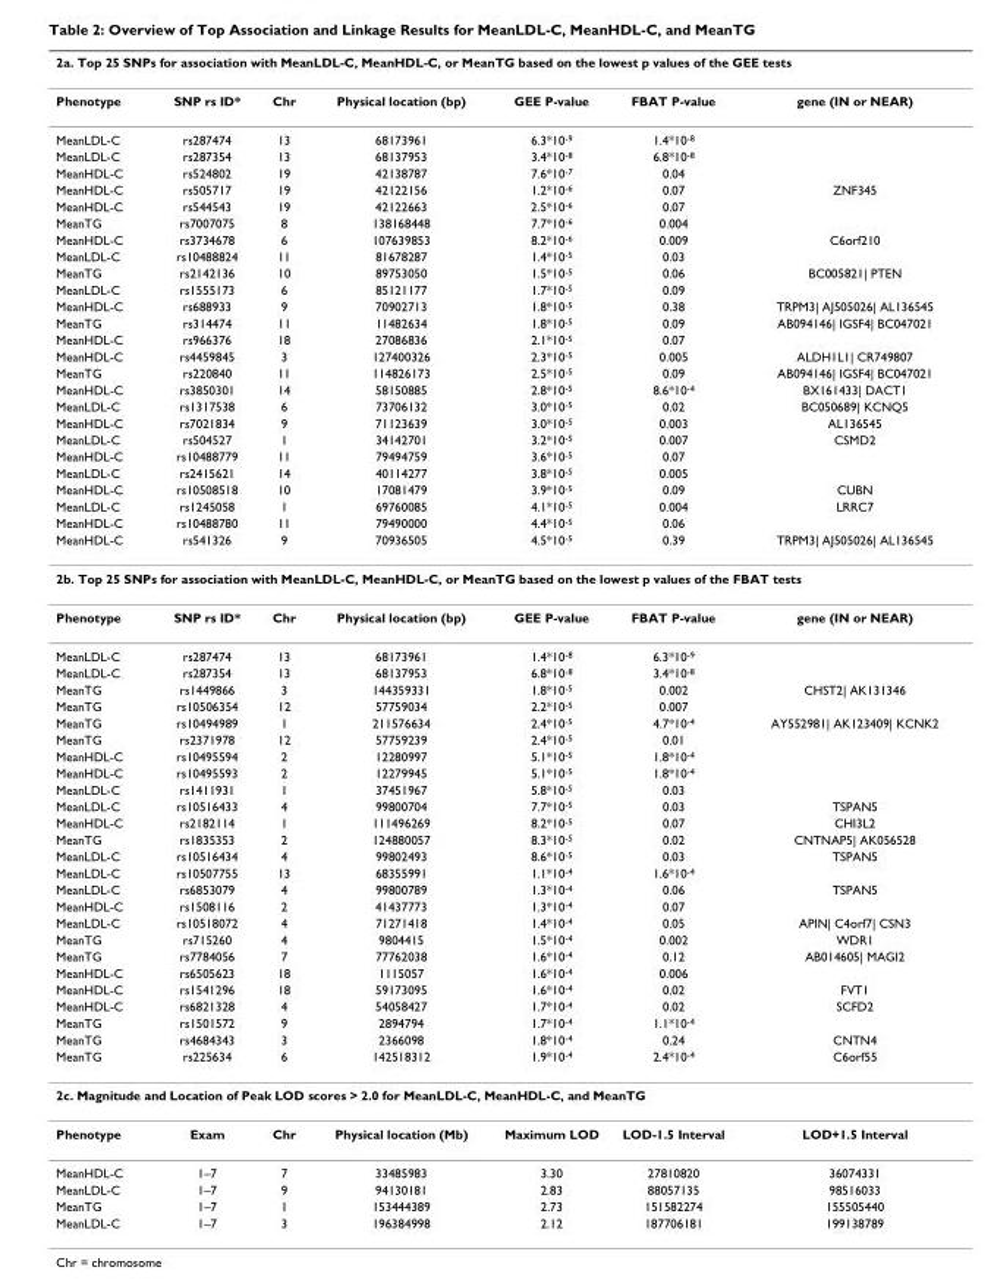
<table><thead><tr><td colspan="7">2a. Top 25 SNPs for association with MeanLDL-C, MeanHDL-C, or MeanTG based on the lowest p values of the GEE tests</td></tr><tr><td>Phenotype</td><td>SNP rs ID*</td><td>Chr</td><td>Physical location (bp)</td><td>GEE P-value</td><td>FBAT P-value</td><td>gene (IN or NEAR)</td></tr></thead><tbody><tr><td>MeanLDL-C</td><td>rs287474</td><td>13</td><td>68173961</td><td>6.3*10<sup>-9</sup></td><td>1.4*10<sup>-8</sup></td><td></td></tr><tr><td>MeanLDL-C</td><td>rs287354</td><td>13</td><td>68137953</td><td>3.4*10<sup>-8</sup></td><td>6.8*10<sup>-8</sup></td><td></td></tr><tr><td>MeanHDL-C</td><td>rs524802</td><td>19</td><td>42138787</td><td>7.6*10<sup>-7</sup></td><td>0.04</td><td></td></tr><tr><td>MeanHDL-C</td><td>rs505717</td><td>19</td><td>42122156</td><td>1.2*10<sup>-6</sup></td><td>0.07</td><td>ZNF345</td></tr><tr><td>MeanHDL-C</td><td>rs544543</td><td>19</td><td>42122663</td><td>2.5*10<sup>-6</sup></td><td>0.07</td><td></td></tr><tr><td>MeanTG</td><td>rs7007075</td><td>8</td><td>138168448</td><td>7.7*10<sup>-6</sup></td><td>0.004</td><td></td></tr><tr><td>MeanHDL-C</td><td>rs3734678</td><td>6</td><td>107639853</td><td>8.2*10<sup>-6</sup></td><td>0.009</td><td>C6orf210</td></tr><tr><td>MeanLDL-C</td><td>rs10488824</td><td>11</td><td>81678287</td><td>1.4*10<sup>-5</sup></td><td>0.03</td><td></td></tr><tr><td>MeanTG</td><td>rs2142136</td><td>10</td><td>89753050</td><td>1.5*10<sup>-5</sup></td><td>0.06</td><td>BC005821| PTEN</td></tr><tr><td>MeanLDL-C</td><td>rs1555173</td><td>6</td><td>85121177</td><td>1.7*10<sup>-5</sup></td><td>0.09</td><td></td></tr><tr><td>MeanHDL-C</td><td>rs688933</td><td>9</td><td>70902713</td><td>1.8*10<sup>-5</sup></td><td>0.38</td><td>TRPM3| AJ505026| AL136545</td></tr><tr><td>MeanTG</td><td>rs314474</td><td>11</td><td>11482634</td><td>1.8*10<sup>-5</sup></td><td>0.09</td><td>AB094146| IGSF4| BC047021</td></tr><tr><td>MeanHDL-C</td><td>rs966376</td><td>18</td><td>27086836</td><td>2.1*10<sup>-5</sup></td><td>0.07</td><td></td></tr><tr><td>MeanHDL-C</td><td>rs4459845</td><td>3</td><td>127400326</td><td>2.3*10<sup>-5</sup></td><td>0.005</td><td>ALDH1L1| CR749807</td></tr><tr><td>MeanTG</td><td>rs220840</td><td>11</td><td>114826173</td><td>2.5*10<sup>-5</sup></td><td>0.09</td><td>AB094146| IGSF4| BC047021</td></tr><tr><td>MeanHDL-C</td><td>rs3850301</td><td>14</td><td>58150885</td><td>2.8*10<sup>-5</sup></td><td>8.6*10<sup>-4</sup></td><td>BX161433| DACT1</td></tr><tr><td>MeanLDL-C</td><td>rs1317538</td><td>6</td><td>73706132</td><td>3.0*10<sup>-5</sup></td><td>0.02</td><td>BC050689| KCNQ5</td></tr><tr><td>MeanHDL-C</td><td>rs7021834</td><td>9</td><td>71123639</td><td>3.0*10<sup>-5</sup></td><td>0.003</td><td>AL136545</td></tr><tr><td>MeanLDL-C</td><td>rs504527</td><td>1</td><td>34142701</td><td>3.2*10<sup>-5</sup></td><td>0.007</td><td>CSMD2</td></tr><tr><td>MeanHDL-C</td><td>rs10488779</td><td>11</td><td>79494759</td><td>3.6*10<sup>-5</sup></td><td>0.07</td><td></td></tr><tr><td>MeanLDL-C</td><td>rs2415621</td><td>14</td><td>40114277</td><td>3.8*10<sup>-5</sup></td><td>0.005</td><td></td></tr><tr><td>MeanHDL-C</td><td>rs10508518</td><td>10</td><td>17081479</td><td>3.9*10<sup>-5</sup></td><td>0.09</td><td>CUBN</td></tr><tr><td>MeanLDL-C</td><td>rs1245058</td><td>1</td><td>69760085</td><td>4.1*10<sup>-5</sup></td><td>0.004</td><td>LRRC7</td></tr><tr><td>MeanHDL-C</td><td>rs10488780</td><td>11</td><td>79490000</td><td>4.4*10<sup>-5</sup></td><td>0.06</td><td></td></tr><tr><td>MeanHDL-C</td><td>rs541326</td><td>9</td><td>70936505</td><td>4.5*10<sup>-5</sup></td><td>0.39</td><td>TRPM3| AJ505026| AL136545</td></tr><tr><td colspan="7">2b. Top 25 SNPs for association with MeanLDL-C, MeanHDL-C, or MeanTG based on the lowest p values of the FBAT tests</td></tr><tr><td>Phenotype</td><td>SNP rs ID*</td><td>Chr</td><td>Physical location (bp)</td><td>GEE P-value</td><td>FBAT P-value</td><td>gene (IN or NEAR)</td></tr><tr><td>MeanLDL-C</td><td>rs287474</td><td>13</td><td>68173961</td><td>1.4*10<sup>-8</sup></td><td>6.3*10<sup>-9</sup></td><td></td></tr><tr><td>MeanLDL-C</td><td>rs287354</td><td>13</td><td>68137953</td><td>6.8*10<sup>-8</sup></td><td>3.4*10<sup>-8</sup></td><td></td></tr><tr><td>MeanTG</td><td>rs1449866</td><td>3</td><td>144359331</td><td>1.8*10<sup>-5</sup></td><td>0.002</td><td>CHST2| AK131346</td></tr><tr><td>MeanTG</td><td>rs10506354</td><td>12</td><td>57759034</td><td>2.2*10<sup>-5</sup></td><td>0.007</td><td></td></tr><tr><td>MeanTG</td><td>rs10494989</td><td>1</td><td>211576634</td><td>2.4*10<sup>-5</sup></td><td>4.7*10<sup>-4</sup></td><td>AY552981| AK123409| KCNK2</td></tr><tr><td>MeanTG</td><td>rs2371978</td><td>12</td><td>57759239</td><td>2.4*10<sup>-5</sup></td><td>0.01</td><td></td></tr><tr><td>MeanHDL-C</td><td>rs10495594</td><td>2</td><td>12280997</td><td>5.1*10<sup>-5</sup></td><td>1.8*10<sup>-4</sup></td><td></td></tr><tr><td>MeanHDL-C</td><td>rs10495593</td><td>2</td><td>12279945</td><td>5.1*10<sup>-5</sup></td><td>1.8*10<sup>-4</sup></td><td></td></tr><tr><td>MeanLDL-C</td><td>rs1411931</td><td>1</td><td>37451967</td><td>5.8*10<sup>-5</sup></td><td>0.03</td><td></td></tr><tr><td>MeanLDL-C</td><td>rs10516433</td><td>4</td><td>99800704</td><td>7.7*10<sup>-5</sup></td><td>0.03</td><td>TSPAN5</td></tr><tr><td>MeanHDL-C</td><td>rs2182114</td><td>1</td><td>111496269</td><td>8.2*10<sup>-5</sup></td><td>0.07</td><td>CHI3L2</td></tr><tr><td>MeanTG</td><td>rs1835353</td><td>2</td><td>124880057</td><td>8.3*10<sup>-5</sup></td><td>0.02</td><td>CNTNAP5| AK056528</td></tr><tr><td>MeanLDL-C</td><td>rs10516434</td><td>4</td><td>99802493</td><td>8.6*10<sup>-5</sup></td><td>0.03</td><td>TSPAN5</td></tr><tr><td>MeanLDL-C</td><td>rs10507755</td><td>13</td><td>68355991</td><td>1.1*10<sup>-4</sup></td><td>1.6*10<sup>-4</sup></td><td></td></tr><tr><td>MeanLDL-C</td><td>rs6853079</td><td>4</td><td>99800789</td><td>1.3*10<sup>-4</sup></td><td>0.06</td><td>TSPAN5</td></tr><tr><td>MeanHDL-C</td><td>rs1508116</td><td>2</td><td>41437773</td><td>1.3*10<sup>-4</sup></td><td>0.07</td><td></td></tr><tr><td>MeanLDL-C</td><td>rs10518072</td><td>4</td><td>71271418</td><td>1.4*10<sup>-4</sup></td><td>0.05</td><td>APIN| C4orf7| CSN3</td></tr><tr><td>MeanTG</td><td>rs715260</td><td>4</td><td>9804415</td><td>1.5*10<sup>-4</sup></td><td>0.002</td><td>WDR1</td></tr><tr><td>MeanTG</td><td>rs7784056</td><td>7</td><td>77762038</td><td>1.6*10<sup>-4</sup></td><td>0.12</td><td>AB014605| MAGI2</td></tr><tr><td>MeanHDL-C</td><td>rs6505623</td><td>18</td><td>1115057</td><td>1.6*10<sup>-4</sup></td><td>0.006</td><td></td></tr><tr><td>MeanHDL-C</td><td>rs1541296</td><td>18</td><td>59173095</td><td>1.6*10<sup>-4</sup></td><td>0.02</td><td>FVT1</td></tr><tr><td>MeanHDL-C</td><td>rs6821328</td><td>4</td><td>54058427</td><td>1.7*10<sup>-4</sup></td><td>0.02</td><td>SCFD2</td></tr><tr><td>MeanTG</td><td>rs1501572</td><td>9</td><td>2894794</td><td>1.7*10<sup>-4</sup></td><td>1.1*10<sup>-4</sup></td><td></td></tr><tr><td>MeanTG</td><td>rs4684343</td><td>3</td><td>2366098</td><td>1.8*10<sup>-4</sup></td><td>0.24</td><td>CNTN4</td></tr><tr><td>MeanTG</td><td>rs225634</td><td>6</td><td>142518312</td><td>1.9*10<sup>-4</sup></td><td>2.4*10<sup>-4</sup></td><td>C6orf55</td></tr><tr><td colspan="7">2c. Magnitude and Location of Peak LOD scores &gt; 2.0 for MeanLDL-C, MeanHDL-C, and MeanTG</td></tr><tr><td>Phenotype</td><td>Exam</td><td>Chr</td><td>Physical location (Mb)</td><td>Maximum LOD</td><td>LOD-1.5 Interval</td><td>LOD+1.5 Interval</td></tr><tr><td>MeanHDL-C</td><td>1–7</td><td>7</td><td>33485983</td><td>3.30</td><td>27810820</td><td>36074331</td></tr><tr><td>MeanLDL-C</td><td>1–7</td><td>9</td><td>94130181</td><td>2.83</td><td>88057135</td><td>98516033</td></tr><tr><td>MeanTG</td><td>1–7</td><td>1</td><td>153444389</td><td>2.73</td><td>151582274</td><td>155505440</td></tr><tr><td>MeanLDL-C</td><td>1–7</td><td>3</td><td>196384998</td><td>2.12</td><td>187706181</td><td>199138789</td></tr></tbody></table>